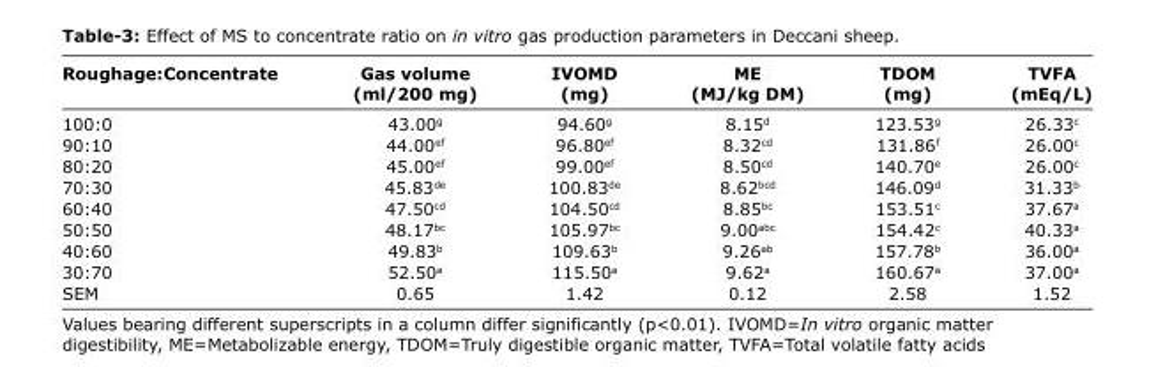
<table><thead><tr><td>Roughage:Concentrate</td><td>Gas volume (ml/200 mg)</td><td>IVOMD (mg)</td><td>ME (MJ/kg DM)</td><td>TDOM (mg)</td><td>TVFA (mEq/L)</td></tr></thead><tbody><tr><td>100:0</td><td>43.00<sup>g</sup></td><td>94.60<sup>g</sup></td><td>8.15<sup>d</sup></td><td>123.53<sup>g</sup></td><td>26.33<sup>c</sup></td></tr><tr><td>90:10</td><td>44.00<sup>ef</sup></td><td>96.80<sup>ef</sup></td><td>8.32<sup>cd</sup></td><td>131.86<sup>f</sup></td><td>26.00<sup>c</sup></td></tr><tr><td>80:20</td><td>45.00<sup>ef</sup></td><td>99.00<sup>ef</sup></td><td>8.50<sup>cd</sup></td><td>140.70<sup>e</sup></td><td>26.00<sup>c</sup></td></tr><tr><td>70:30</td><td>45.83<sup>de</sup></td><td>100.83<sup>de</sup></td><td>8.62<sup>bcd</sup></td><td>146.09<sup>d</sup></td><td>31.33<sup>b</sup></td></tr><tr><td>60:40</td><td>47.50<sup>cd</sup></td><td>104.50<sup>cd</sup></td><td>8.85<sup>bc</sup></td><td>153.51<sup>c</sup></td><td>37.67<sup>a</sup></td></tr><tr><td>50:50</td><td>48.17<sup>bc</sup></td><td>105.97<sup>bc</sup></td><td>9.00<sup>abc</sup></td><td>154.42<sup>c</sup></td><td>40.33<sup>a</sup></td></tr><tr><td>40:60</td><td>49.83<sup>b</sup></td><td>109.63<sup>b</sup></td><td>9.26<sup>ab</sup></td><td>157.78<sup>b</sup></td><td>36.00<sup>a</sup></td></tr><tr><td>30:70</td><td>52.50<sup>a</sup></td><td>115.50<sup>a</sup></td><td>9.62<sup>a</sup></td><td>160.67<sup>a</sup></td><td>37.00<sup>a</sup></td></tr><tr><td>SEM</td><td>0.65</td><td>1.42</td><td>0.12</td><td>2.58</td><td>1.52</td></tr></tbody></table>